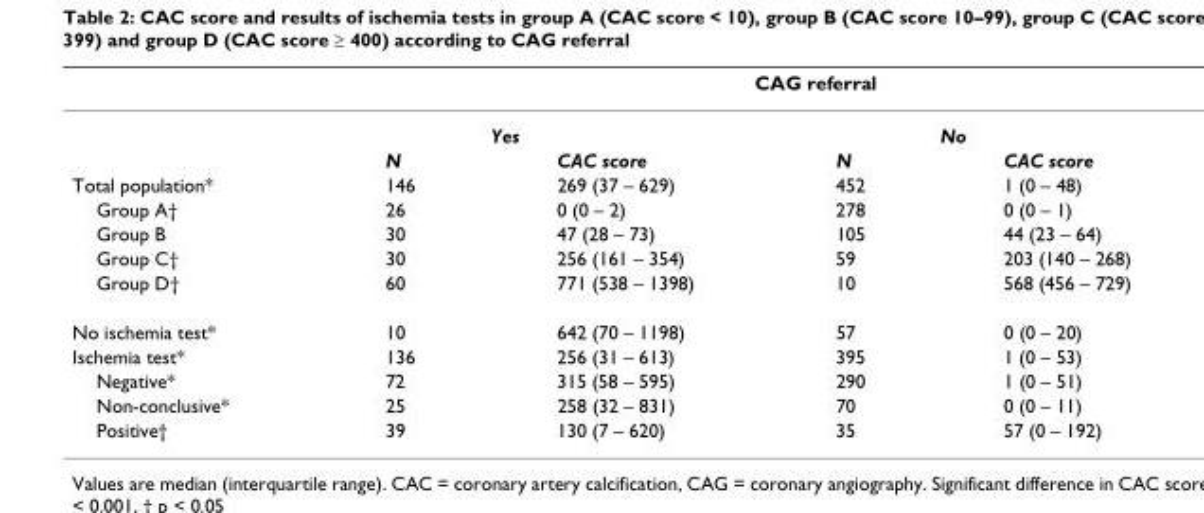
<table><thead><tr><td rowspan="2"></td><td colspan="6">CAG referral</td></tr><tr><td></td><td>Yes</td><td></td><td></td><td>No</td><td></td></tr></thead><tbody><tr><td></td><td>N</td><td></td><td>CAC score</td><td>N</td><td></td><td>CAC score</td></tr><tr><td>Total population*</td><td>146</td><td></td><td>269 (37 – 629)</td><td>452</td><td></td><td>1 (0 – 48)</td></tr><tr><td>Group A†</td><td>26</td><td></td><td>0 (0 – 2)</td><td>278</td><td></td><td>0 (0 – 1)</td></tr><tr><td>Group B</td><td>30</td><td></td><td>47 (28 – 73)</td><td>105</td><td></td><td>44 (23 – 64)</td></tr><tr><td>Group C†</td><td>30</td><td></td><td>256 (161 – 354)</td><td>59</td><td></td><td>203 (140 – 268)</td></tr><tr><td>Group D†</td><td>60</td><td></td><td>771 (538 – 1398)</td><td>10</td><td></td><td>568 (456 – 729)</td></tr><tr><td>No ischemia test*</td><td>10</td><td></td><td>642 (70 – 1198)</td><td>57</td><td></td><td>0 (0 – 20)</td></tr><tr><td>Ischemia test*</td><td>136</td><td></td><td>256 (31 – 613)</td><td>395</td><td></td><td>1 (0 – 53)</td></tr><tr><td>Negative*</td><td>72</td><td></td><td>315 (58 – 595)</td><td>290</td><td></td><td>1 (0 – 51)</td></tr><tr><td>Non-conclusive*</td><td>25</td><td></td><td>258 (32 – 831)</td><td>70</td><td></td><td>0 (0 – 11)</td></tr><tr><td>Positive†</td><td>39</td><td></td><td>130 (7 – 620)</td><td>35</td><td></td><td>57 (0 – 192)</td></tr></tbody></table>